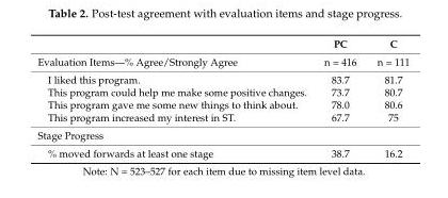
<table><thead><tr><td></td><td>PC</td><td>C</td></tr></thead><tbody><tr><td>Evaluation Items—% Agree/Strongly Agree</td><td>n = 416</td><td>n = 111</td></tr><tr><td>I liked this program.</td><td>83.7</td><td>81.7</td></tr><tr><td>This program could help me make some positive changes.</td><td>73.7</td><td>80.7</td></tr><tr><td>This program gave me some new things to think about.</td><td>78.0</td><td>80.6</td></tr><tr><td>This program increased my interest in ST.</td><td>67.7</td><td>75</td></tr><tr><td colspan="3">Stage Progress</td></tr><tr><td>% moved forwards at least one stage</td><td>38.7</td><td>16.2</td></tr></tbody></table>